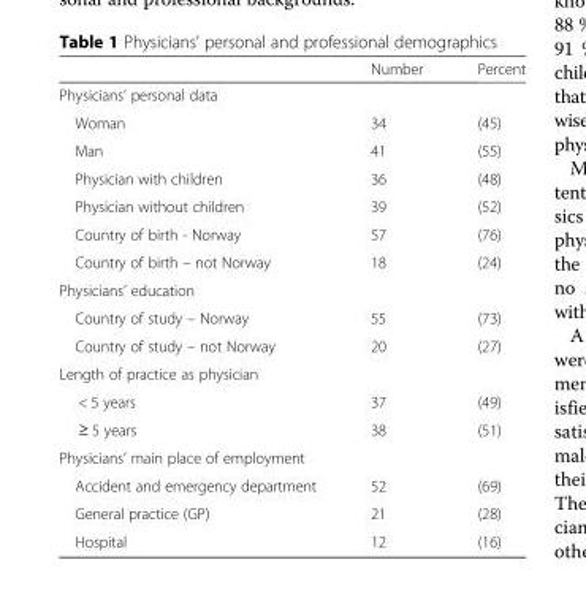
<table><thead><tr><td></td><td>Number</td><td>Percent</td></tr></thead><tbody><tr><td colspan="3">Physicians’ personal data</td></tr><tr><td>Woman</td><td>34</td><td>(45)</td></tr><tr><td>Man</td><td>41</td><td>(55)</td></tr><tr><td>Physician with children</td><td>36</td><td>(48)</td></tr><tr><td>Physician without children</td><td>39</td><td>(52)</td></tr><tr><td>Country of birth - Norway</td><td>57</td><td>(76)</td></tr><tr><td>Country of birth – not Norway</td><td>18</td><td>(24)</td></tr><tr><td colspan="3">Physicians’ education</td></tr><tr><td>Country of study – Norway</td><td>55</td><td>(73)</td></tr><tr><td>Country of study – not Norway</td><td>20</td><td>(27)</td></tr><tr><td colspan="3">Length of practice as physician</td></tr><tr><td>&lt; 5 years</td><td>37</td><td>(49)</td></tr><tr><td>≥ 5 years</td><td>38</td><td>(51)</td></tr><tr><td colspan="3">Physicians’ main place of employment</td></tr><tr><td>Accident and emergency department</td><td>52</td><td>(69)</td></tr><tr><td>General practice (GP)</td><td>21</td><td>(28)</td></tr><tr><td>Hospital</td><td>12</td><td>(16)</td></tr></tbody></table>